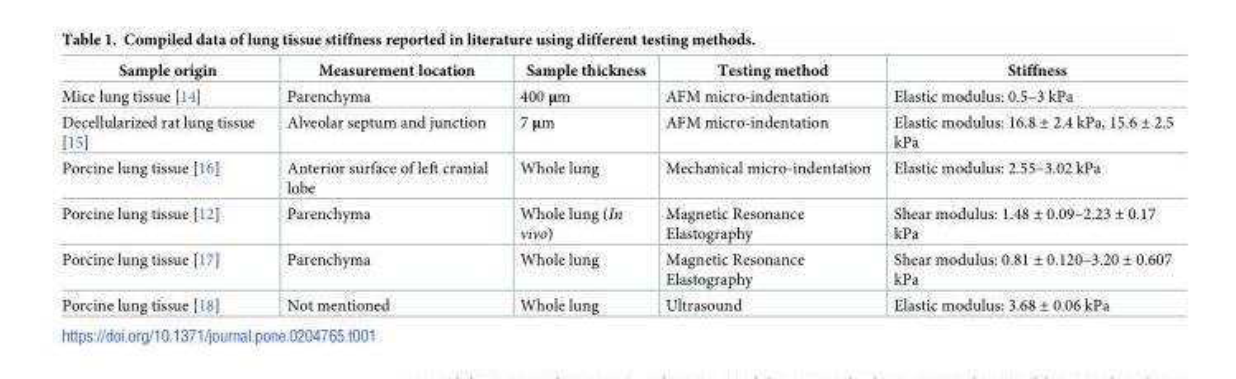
<table><thead><tr><td>Sample origin</td><td>Measurement location</td><td>Sample thickness</td><td>Testing method</td><td>Stiffness</td></tr></thead><tbody><tr><td>Mice lung tissue [14]</td><td>Parenchyma</td><td>400 μm</td><td>AFM micro-indentation</td><td>Elastic modulus: 0.5–3 kPa</td></tr><tr><td>Decellularized rat lung tissue [15]</td><td>Alveolar septum and junction</td><td>7 μm</td><td>AFM micro-indentation</td><td>Elastic modulus: 16.8 ± 2.4 kPa, 15.6 ± 2.5 kPa</td></tr><tr><td>Porcine lung tissue [16]</td><td>Anterior surface of left cranial lobe</td><td>Whole lung</td><td>Mechanical micro-indentation</td><td>Elastic modulus: 2.55–3.02 kPa</td></tr><tr><td>Porcine lung tissue [12]</td><td>Parenchyma</td><td>Whole lung (In vivo)</td><td>Magnetic Resonance Elastography</td><td>Shear modulus: 1.48 ± 0.09–2.23 ± 0.17 kPa</td></tr><tr><td>Porcine lung tissue [17]</td><td>Parenchyma</td><td>Whole lung</td><td>Magnetic Resonance Elastography</td><td>Shear modulus: 0.81 ± 0.120–3.20 ± 0.607 kPa</td></tr><tr><td>Porcine lung tissue [18]</td><td>Not mentioned</td><td>Whole lung</td><td>Ultrasound</td><td>Elastic modulus: 3.68 ± 0.06 kPa</td></tr></tbody></table>